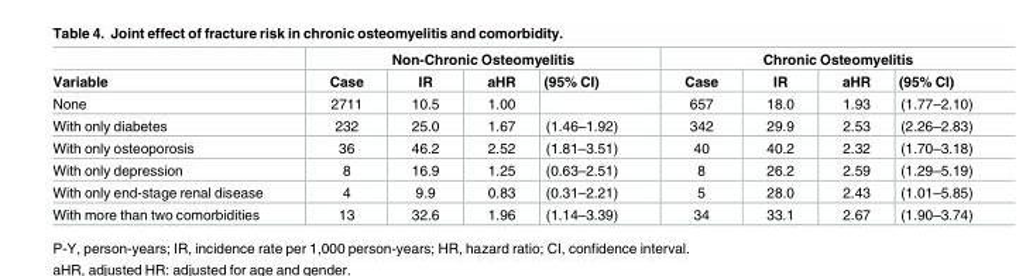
<table><thead><tr><td rowspan="2">Variable</td><td colspan="4">Non-Chronic Osteomyelitis</td><td colspan="4">Chronic Osteomyelitis</td></tr><tr><td>Case</td><td>IR</td><td>aHR</td><td>(95% CI)</td><td>Case</td><td>IR</td><td>aHR</td><td>(95% CI)</td></tr></thead><tbody><tr><td>None</td><td>2711</td><td>10.5</td><td>1.00</td><td></td><td>657</td><td>18.0</td><td>1.93</td><td>(1.77–2.10)</td></tr><tr><td>With only diabetes</td><td>232</td><td>25.0</td><td>1.67</td><td>(1.46–1.92)</td><td>342</td><td>29.9</td><td>2.53</td><td>(2.26–2.83)</td></tr><tr><td>With only osteoporosis</td><td>36</td><td>46.2</td><td>2.52</td><td>(1.81–3.51)</td><td>40</td><td>40.2</td><td>2.32</td><td>(1.70–3.18)</td></tr><tr><td>With only depression</td><td>8</td><td>16.9</td><td>1.25</td><td>(0.63–2.51)</td><td>8</td><td>26.2</td><td>2.59</td><td>(1.29–5.19)</td></tr><tr><td>With only end-stage renal disease</td><td>4</td><td>9.9</td><td>0.83</td><td>(0.31–2.21)</td><td>5</td><td>28.0</td><td>2.43</td><td>(1.01–5.85)</td></tr><tr><td>With more than two comorbidities</td><td>13</td><td>32.6</td><td>1.96</td><td>(1.14–3.39)</td><td>34</td><td>33.1</td><td>2.67</td><td>(1.90–3.74)</td></tr></tbody></table>